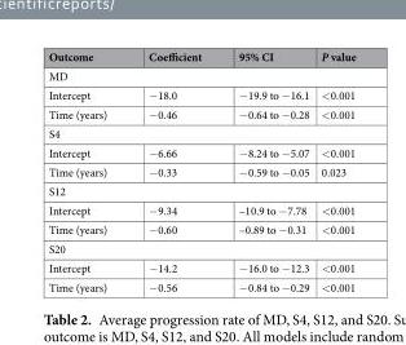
<table><thead><tr><td>Outcome</td><td>Coefficient</td><td>95% CI</td><td>P value</td></tr></thead><tbody><tr><td colspan="4">MD</td></tr><tr><td>Intercept</td><td>−18.0</td><td>−19.9 to −16.1</td><td>&lt;0.001</td></tr><tr><td>Time (years)</td><td>−0.46</td><td>−0.64 to −0.28</td><td>&lt;0.001</td></tr><tr><td colspan="4">S4</td></tr><tr><td>Intercept</td><td>−6.66</td><td>−8.24 to −5.07</td><td>&lt;0.001</td></tr><tr><td>Time (years)</td><td>−0.33</td><td>−0.59 to −0.05</td><td>0.023</td></tr><tr><td colspan="4">S12</td></tr><tr><td>Intercept</td><td>−9.34</td><td>–10.9 to −7.78</td><td>&lt;0.001</td></tr><tr><td>Time (years)</td><td>−0.60</td><td>–0.89 to −0.31</td><td>&lt;0.001</td></tr><tr><td colspan="4">S20</td></tr><tr><td>Intercept</td><td>−14.2</td><td>−16.0 to −12.3</td><td>&lt;0.001</td></tr><tr><td>Time (years)</td><td>−0.56</td><td>−0.84 to −0.29</td><td>&lt;0.001</td></tr></tbody></table>